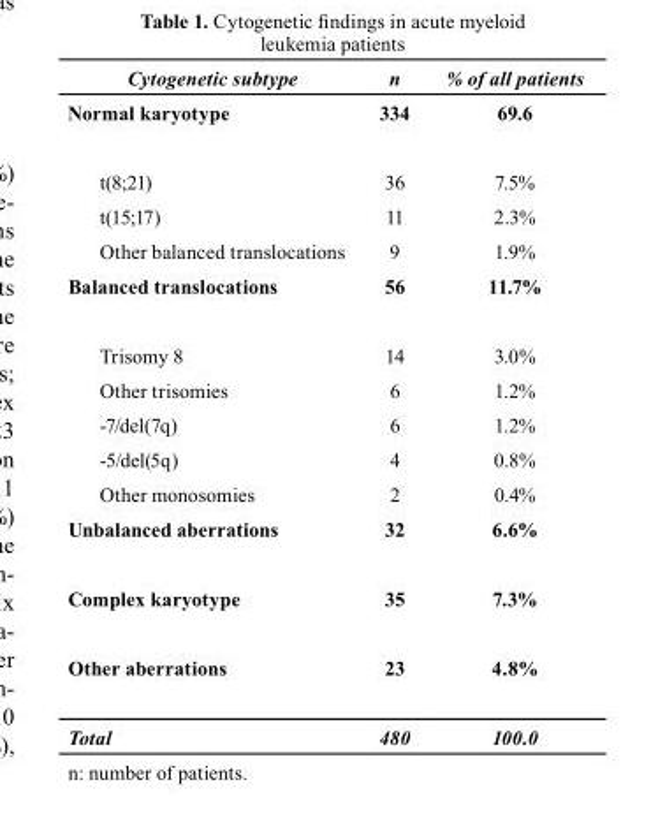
<table><thead><tr><td>Cytogenetic subtype</td><td>n</td><td>% of all patients</td></tr></thead><tbody><tr><td>Normal karyotype</td><td>334</td><td>69.6</td></tr><tr><td>t(8;21)</td><td>36</td><td>7.5%</td></tr><tr><td>t(15;17)</td><td>11</td><td>2.3%</td></tr><tr><td>Other balanced translocations</td><td>9</td><td>1.9%</td></tr><tr><td>balanced translocations</td><td>56</td><td>11.7%</td></tr><tr><td>Trisomy 8</td><td>14</td><td>3.0%</td></tr><tr><td>Other trisomies</td><td>6</td><td>1.2%</td></tr><tr><td>-7/del(7q)</td><td>6</td><td>1.2%</td></tr><tr><td>-5/del(5q)</td><td>4</td><td>0.8%</td></tr><tr><td>Other monosomies</td><td>2</td><td>0.4%</td></tr><tr><td>Unbalanced aberrations</td><td>32</td><td>6.6%</td></tr><tr><td>complex karyotype</td><td>35</td><td>7.3%</td></tr><tr><td>Other aberrations</td><td>23</td><td>4.8%</td></tr><tr><td>Total</td><td>480</td><td>100.0</td></tr></tbody></table>